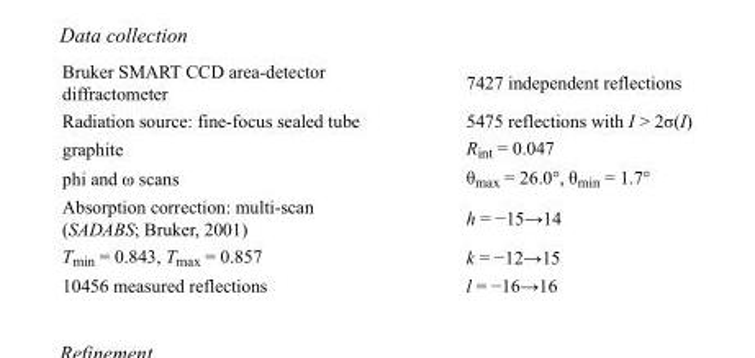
<table><tbody><tr><td>Bruker SMART CCD area-detector diffractometer</td><td>7427 independent reflections</td></tr><tr><td>Radiation source: fine-focus sealed tube</td><td>5475 reflections with I &gt; 2σ(I)</td></tr><tr><td>graphite</td><td>R<sub>int</sub> = 0.047</td></tr><tr><td>phi and ω scans</td><td>θ<sub>max</sub> = 26.0°, θ<sub>min</sub> = 1.7°</td></tr><tr><td>Absorption correction: multi-scan (SADABS; Bruker, 2001)</td><td>h = −15→14</td></tr><tr><td>T<sub>min</sub> = 0.843, T<sub>max</sub> = 0.857</td><td>k = −12→15</td></tr><tr><td>10456 measured reflections</td><td>l = −16→16</td></tr></tbody></table>